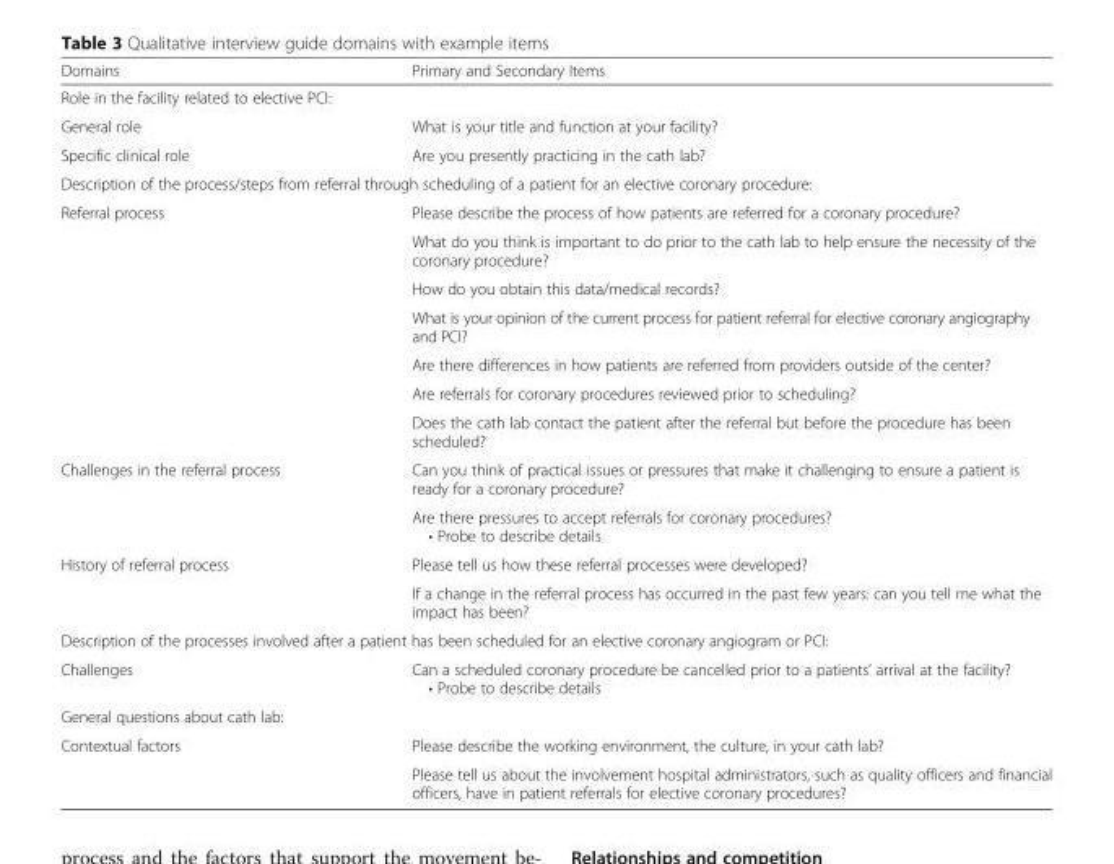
<table><thead><tr><td>Domains</td><td>Primary and Secondary Items</td></tr></thead><tbody><tr><td colspan="2">Role in the facility related to elective PCI:</td></tr><tr><td>General role</td><td>What is your title and function at your facility?</td></tr><tr><td>Specific clinical role</td><td>Are you presently practicing in the cath lab?</td></tr><tr><td colspan="2">Description of the process/steps from referral through scheduling of a patient for an elective coronary procedure:</td></tr><tr><td rowspan="7">Referral process</td><td>Please describe the process of how patients are referred for a coronary procedure?</td></tr><tr><td>What do you think is important to do prior to the cath lab to help ensure the necessity of the coronary procedure?</td></tr><tr><td>How do you obtain this data/medical records?</td></tr><tr><td>What is your opinion of the current process for patient referral for elective coronary angiography and PCI?</td></tr><tr><td>Are there differences in how patients are referred from providers outside of the center?</td></tr><tr><td>Are referrals for coronary procedures reviewed prior to scheduling?</td></tr><tr><td>Does the cath lab contact the patient after the referral but before the procedure has been scheduled?</td></tr><tr><td rowspan="2">Challenges in the referral process</td><td>Can you think of practical issues or pressures that make it challenging to ensure a patient is ready for a coronary procedure?</td></tr><tr><td>Are there pressures to accept referrals for coronary procedures? • Probe to describe details</td></tr><tr><td rowspan="2">History of referral process</td><td>Please tell us how these referral processes were developed?</td></tr><tr><td>If a change in the referral process has occurred in the past few years: can you tell me what the impact has been?</td></tr><tr><td colspan="2">Description of the processes involved after a patient has been scheduled for an elective coronary angiogram or PCI:</td></tr><tr><td>Challenges</td><td>Can a scheduled coronary procedure be cancelled prior to a patients’ arrival at the facility? • Probe to describe details</td></tr><tr><td colspan="2">General questions about cath lab:</td></tr><tr><td rowspan="2">Contextual factors</td><td>Please describe the working environment, the culture, in your cath lab?</td></tr><tr><td>Please tell us about the involvement hospital administrators, such as quality officers and financial officers, have in patient referrals for elective coronary procedures?</td></tr></tbody></table>